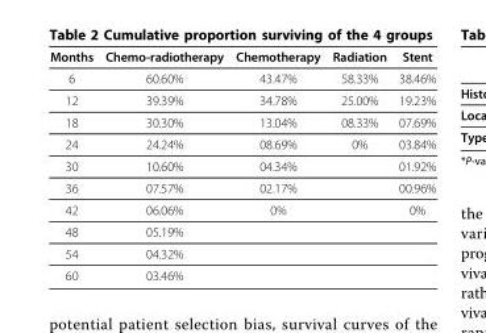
<table><thead><tr><td>Months</td><td>Chemo-radiotherapy</td><td>Chemotherapy</td><td>Radiation</td><td>Stent</td></tr></thead><tbody><tr><td>6</td><td>60.60%</td><td>43.47%</td><td>58.33%</td><td>38.46%</td></tr><tr><td>12</td><td>39.39%</td><td>34.78%</td><td>25.00%</td><td>19.23%</td></tr><tr><td>18</td><td>30.30%</td><td>13.04%</td><td>08.33%</td><td>07.69%</td></tr><tr><td>24</td><td>24.24%</td><td>08.69%</td><td>0%</td><td>03.84%</td></tr><tr><td>30</td><td>10.60%</td><td>04.34%</td><td></td><td>01.92%</td></tr><tr><td>36</td><td>07.57%</td><td>02.17%</td><td></td><td>00.96%</td></tr><tr><td>42</td><td>06.06%</td><td>0%</td><td></td><td>0%</td></tr><tr><td>48</td><td>05.19%</td><td></td><td></td><td></td></tr><tr><td>54</td><td>04.32%</td><td></td><td></td><td></td></tr><tr><td>60</td><td>03.46%</td><td></td><td></td><td></td></tr></tbody></table>